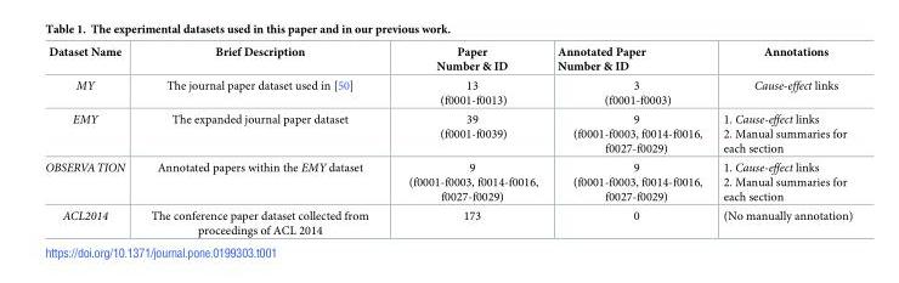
<table><thead><tr><td>Dataset Name</td><td>Brief Description</td><td>Paper Number &amp; ID</td><td>Annotated Paper Number &amp; ID</td><td>Annotations</td></tr></thead><tbody><tr><td>MY</td><td>The journal paper dataset used in [50]</td><td>13 (f0001-f0013)</td><td>3 (f0001-f0003)</td><td>Cause-effect links</td></tr><tr><td>EMY</td><td>The expanded journal paper dataset</td><td>39 (f0001-f0039)</td><td>9 (f0001-f0003, f0014-f0016, f0027-f0029)</td><td>1. Cause-effect links 2. Manual summaries for each section</td></tr><tr><td>OBSERVATION</td><td>Annotated papers within the EMY dataset</td><td>9 (f0001-f0003, f0014-f0016, f0027-f0029)</td><td>9 (f0001-f0003, f0014-f0016, f0027-f0029)</td><td>1. Cause-effect links 2. Manual summaries for each section</td></tr><tr><td>ACL2014</td><td>The conference paper dataset collected from proceedings of ACL 2014</td><td>173</td><td>0</td><td>(No manually annotation)</td></tr></tbody></table>